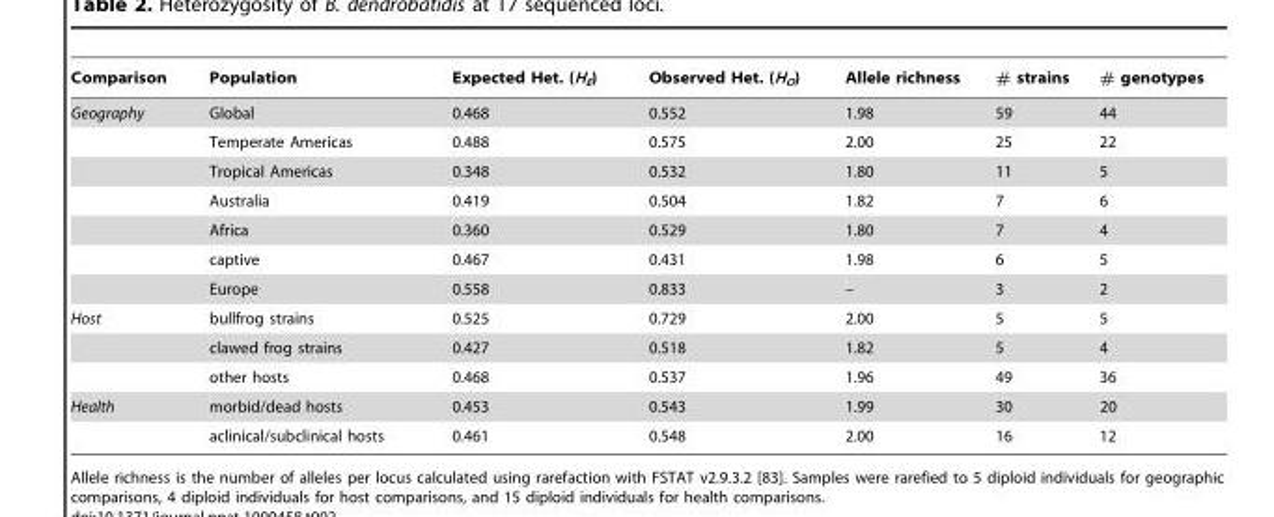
<table><thead><tr><td>Comparison</td><td>Population</td><td>Expected Het. (H<sub>E</sub>)</td><td>Observed Het. (H<sub>O</sub>)</td><td>Allele richness</td><td># strains</td><td># genotypes</td></tr></thead><tbody><tr><td rowspan="7">Geography</td><td>Global</td><td>0.468</td><td>0.552</td><td>1.98</td><td>59</td><td>44</td></tr><tr><td>Temperate Americas</td><td>0.488</td><td>0.575</td><td>2.00</td><td>25</td><td>22</td></tr><tr><td>Tropical Americas</td><td>0.348</td><td>0.532</td><td>1.80</td><td>11</td><td>5</td></tr><tr><td>Australia</td><td>0.419</td><td>0.504</td><td>1.82</td><td>7</td><td>6</td></tr><tr><td>Africa</td><td>0.360</td><td>0.529</td><td>1.80</td><td>7</td><td>4</td></tr><tr><td>captive</td><td>0.467</td><td>0.431</td><td>1.98</td><td>6</td><td>5</td></tr><tr><td>Europe</td><td>0.558</td><td>0.833</td><td>–</td><td>3</td><td>2</td></tr><tr><td rowspan="3">Host</td><td>bullfrog strains</td><td>0.525</td><td>0.729</td><td>2.00</td><td>5</td><td>5</td></tr><tr><td>clawed frog strains</td><td>0.427</td><td>0.518</td><td>1.82</td><td>5</td><td>4</td></tr><tr><td>other hosts</td><td>0.468</td><td>0.537</td><td>1.96</td><td>49</td><td>36</td></tr><tr><td rowspan="2">Health</td><td>morbid/dead hosts</td><td>0.453</td><td>0.543</td><td>1.99</td><td>30</td><td>20</td></tr><tr><td>aclinical/subclinical hosts</td><td>0.461</td><td>0.548</td><td>2.00</td><td>16</td><td>12</td></tr></tbody></table>